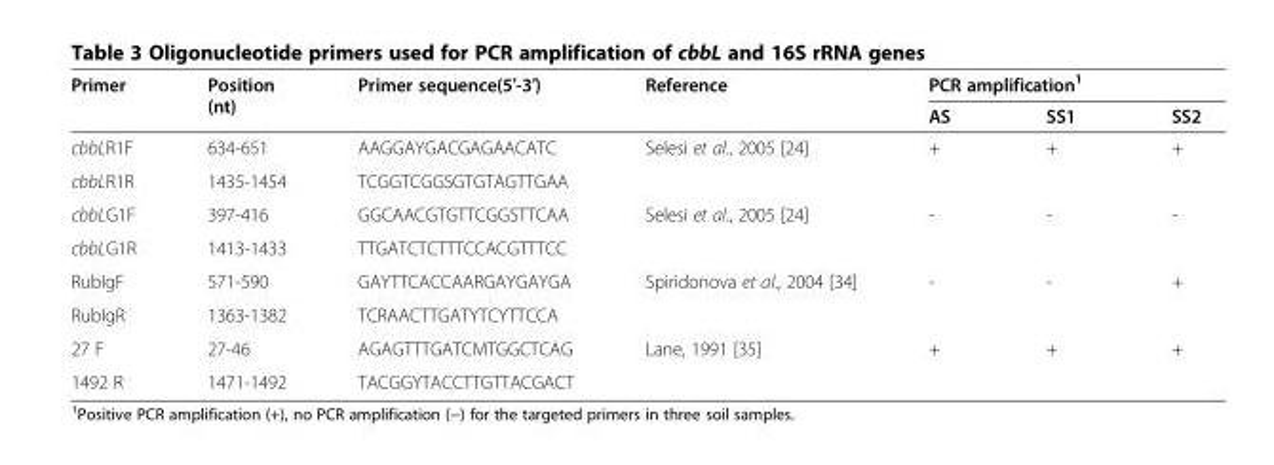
<table><thead><tr><td rowspan="2">Primer</td><td rowspan="2">Position (nt)</td><td rowspan="2">Primer sequence(5′-3′)</td><td rowspan="2">Reference</td><td colspan="3">PCR amplification<sup>1</sup></td></tr><tr><td>AS</td><td>SS1</td><td>SS2</td></tr></thead><tbody><tr><td>cbbLR1F</td><td>634-651</td><td>AAGGAYGACGAGAACATC</td><td rowspan="2">Selesi et al., 2005 [24]</td><td rowspan="2">+</td><td rowspan="2">+</td><td rowspan="2">+</td></tr><tr><td>cbbLR1R</td><td>1435-1454</td><td>TCGGTCGGSGTGTAGTTGAA</td></tr><tr><td>cbbLG1F</td><td>397-416</td><td>GGCAACGTGTTCGGSTTCAA</td><td rowspan="2">Selesi et al., 2005 [24]</td><td rowspan="2">-</td><td rowspan="2">-</td><td rowspan="2">-</td></tr><tr><td>cbbLG1R</td><td>1413-1433</td><td>TTGATCTCTTTCCACGTTTCC</td></tr><tr><td>RubIgF</td><td>571-590</td><td>GAYTTCACCAARGAYGAYGA</td><td rowspan="2">Spiridonova et al., 2004 [34]</td><td rowspan="2">-</td><td rowspan="2">-</td><td rowspan="2">+</td></tr><tr><td>RubIgR</td><td>1363-1382</td><td>TCRAACTTGATYTCYTTCCA</td></tr><tr><td>27 F</td><td>27-46</td><td>AGAGTTTGATCMTGGCTCAG</td><td>Lane, 1991 [35]</td><td>+</td><td>+</td><td>+</td></tr><tr><td>1492 R</td><td>1471-1492</td><td>TACGGYTACCTTGTTACGACT</td><td></td><td></td><td></td><td></td></tr></tbody></table>